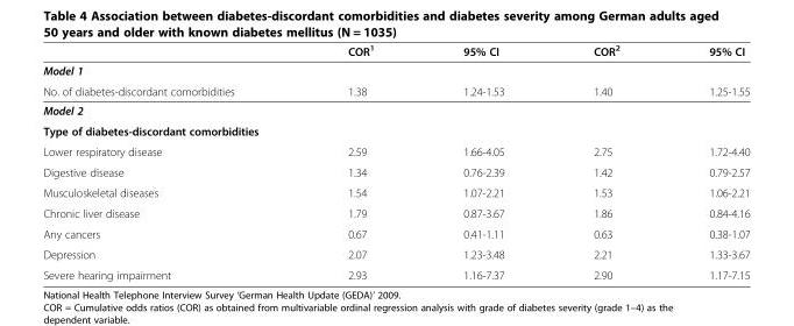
<table><thead><tr><td></td><td>COR<sup>1</sup></td><td>95% CI</td><td>COR<sup>2</sup></td><td>95% CI</td></tr></thead><tbody><tr><td colspan="5">Model 1</td></tr><tr><td>No. of diabetes-discordant comorbidities</td><td>1.38</td><td>1.24-1.53</td><td>1.40</td><td>1.25-1.55</td></tr><tr><td colspan="5">Model 2</td></tr><tr><td colspan="5">Type of diabetes-discordant comorbidities</td></tr><tr><td>Lower respiratory disease</td><td>2.59</td><td>1.66-4.05</td><td>2.75</td><td>1.72-4.40</td></tr><tr><td>Digestive disease</td><td>1.34</td><td>0.76-2.39</td><td>1.42</td><td>0.79-2.57</td></tr><tr><td>Musculoskeletal diseases</td><td>1.54</td><td>1.07-2.21</td><td>1.53</td><td>1.06-2.21</td></tr><tr><td>Chronic liver disease</td><td>1.79</td><td>0.87-3.67</td><td>1.86</td><td>0.84-4.16</td></tr><tr><td>Any cancers</td><td>0.67</td><td>0.41-1.11</td><td>0.63</td><td>0.38-1.07</td></tr><tr><td>Depression</td><td>2.07</td><td>1.23-3.48</td><td>2.21</td><td>1.33-3.67</td></tr><tr><td>Severe hearing impairment</td><td>2.93</td><td>1.16-7.37</td><td>2.90</td><td>1.17-7.15</td></tr></tbody></table>